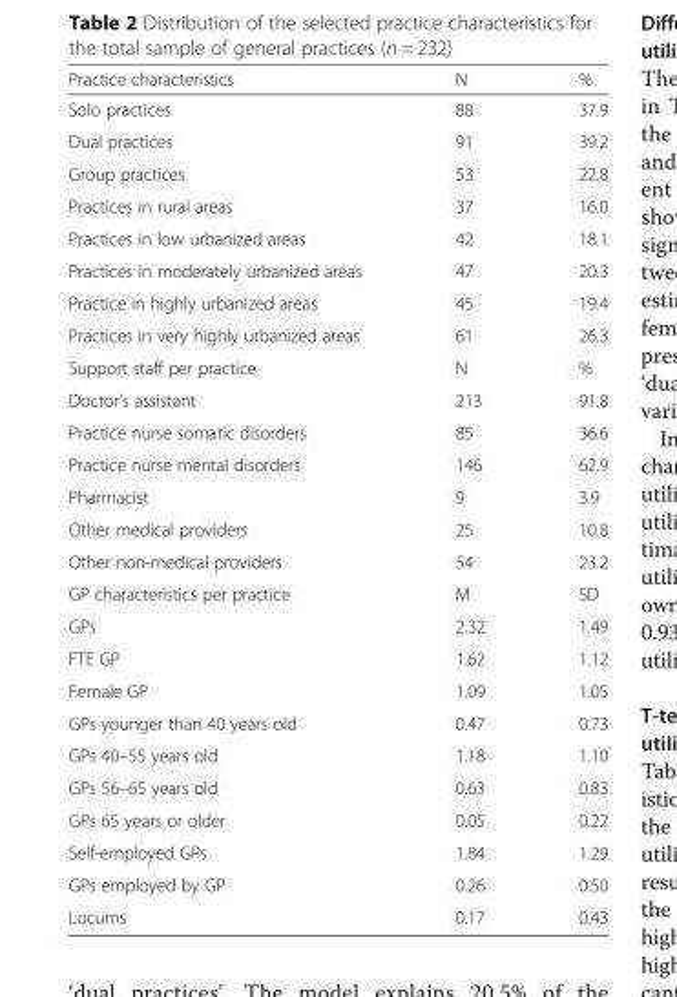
<table><thead><tr><td>Practice characteristics</td><td>N</td><td>%</td></tr></thead><tbody><tr><td>Solo practices</td><td>88</td><td>37.9</td></tr><tr><td>Dual practices</td><td>91</td><td>39.2</td></tr><tr><td>Group practices</td><td>53</td><td>22.8</td></tr><tr><td>Practices in rural areas</td><td>37</td><td>16.0</td></tr><tr><td>Practices in low urbanized areas</td><td>42</td><td>18.1</td></tr><tr><td>Practices in moderately urbanized areas</td><td>47</td><td>20.3</td></tr><tr><td>Practice in highly urbanized areas</td><td>45</td><td>19.4</td></tr><tr><td>Practices in very highly urbanized areas</td><td>61</td><td>26.3</td></tr><tr><td>Support staff per practice</td><td>N</td><td>%</td></tr><tr><td>Doctor’s assistant</td><td>213</td><td>91.8</td></tr><tr><td>Practice nurse somatic disorders</td><td>85</td><td>36.6</td></tr><tr><td>Practice nurse mental disorders</td><td>146</td><td>62.9</td></tr><tr><td>Pharmacist</td><td>9</td><td>3.9</td></tr><tr><td>Other medical providers</td><td>25</td><td>10.8</td></tr><tr><td>Other non-medical providers</td><td>54</td><td>23.2</td></tr><tr><td>GP characteristics per practice</td><td>M</td><td>SD</td></tr><tr><td>GPs</td><td>2.32</td><td>1.49</td></tr><tr><td>FTE GP</td><td>1.62</td><td>1.12</td></tr><tr><td>Female GP</td><td>1.09</td><td>1.05</td></tr><tr><td>GPs younger than 40 years old</td><td>0.47</td><td>0.73</td></tr><tr><td>GPs 40–55 years old</td><td>1.18</td><td>1.10</td></tr><tr><td>GPs 56–65 years old</td><td>0.63</td><td>0.83</td></tr><tr><td>GPs 65 years or older</td><td>0.05</td><td>0.22</td></tr><tr><td>Self-employed GPs</td><td>1.84</td><td>1.29</td></tr><tr><td>GPs employed by GP</td><td>0.26</td><td>0.50</td></tr><tr><td>Locums</td><td>0.17</td><td>0.43</td></tr></tbody></table>